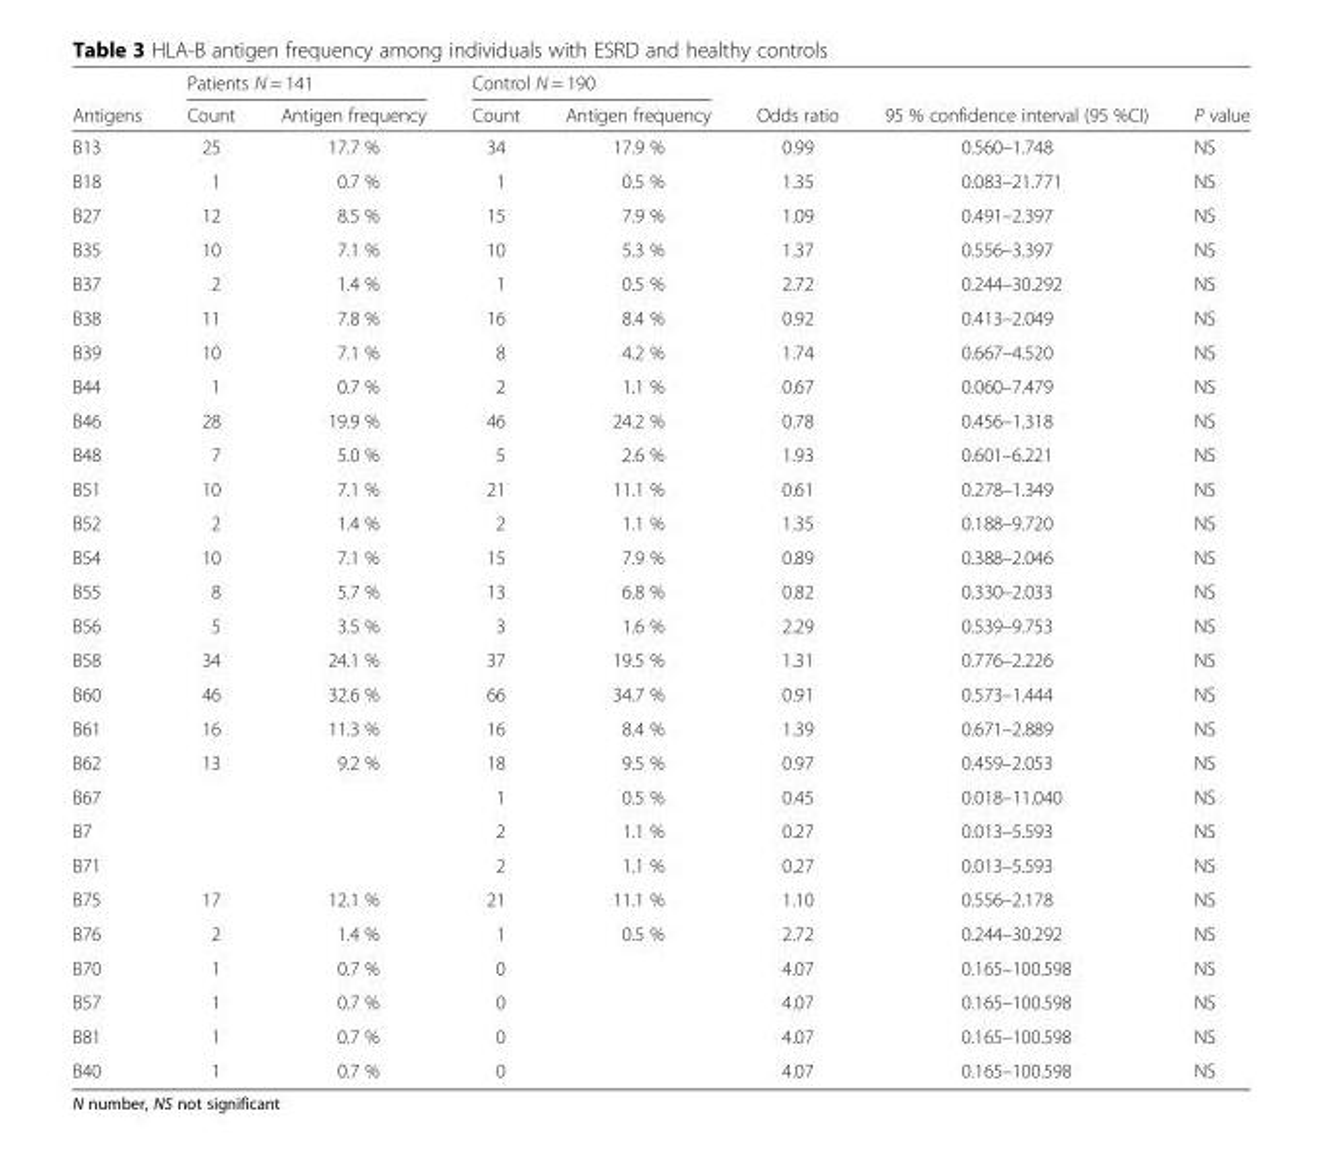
<table><thead><tr><td rowspan="2">Antigens</td><td colspan="2">Patients N = 141</td><td colspan="2">Control N = 190</td><td rowspan="2">Odds ratio</td><td rowspan="2">95 % confidence interval (95 %CI)</td><td rowspan="2">P value</td></tr><tr><td>Count</td><td>Antigen frequency</td><td>Count</td><td>Antigen frequency</td></tr></thead><tbody><tr><td>B13</td><td>25</td><td>17.7 %</td><td>34</td><td>17.9 %</td><td>0.99</td><td>0.560–1.748</td><td>NS</td></tr><tr><td>B18</td><td>1</td><td>0.7 %</td><td>1</td><td>0.5 %</td><td>1.35</td><td>0.083–21.771</td><td>NS</td></tr><tr><td>B27</td><td>12</td><td>8.5 %</td><td>15</td><td>7.9 %</td><td>1.09</td><td>0.491–2.397</td><td>NS</td></tr><tr><td>B35</td><td>10</td><td>7.1 %</td><td>10</td><td>5.3 %</td><td>1.37</td><td>0.556–3.397</td><td>NS</td></tr><tr><td>B37</td><td>2</td><td>1.4 %</td><td>1</td><td>0.5 %</td><td>2.72</td><td>0.244–30.292</td><td>NS</td></tr><tr><td>B38</td><td>11</td><td>7.8 %</td><td>16</td><td>8.4 %</td><td>0.92</td><td>0.413–2.049</td><td>NS</td></tr><tr><td>B39</td><td>10</td><td>7.1 %</td><td>8</td><td>4.2 %</td><td>1.74</td><td>0.667–4.520</td><td>NS</td></tr><tr><td>B44</td><td>1</td><td>0.7 %</td><td>2</td><td>1.1 %</td><td>0.67</td><td>0.060–7.479</td><td>NS</td></tr><tr><td>B46</td><td>28</td><td>19.9 %</td><td>46</td><td>24.2 %</td><td>0.78</td><td>0.456–1.318</td><td>NS</td></tr><tr><td>B48</td><td>7</td><td>5.0 %</td><td>5</td><td>2.6 %</td><td>1.93</td><td>0.601–6.221</td><td>NS</td></tr><tr><td>B51</td><td>10</td><td>7.1 %</td><td>21</td><td>11.1 %</td><td>0.61</td><td>0.278–1.349</td><td>NS</td></tr><tr><td>B52</td><td>2</td><td>1.4 %</td><td>2</td><td>1.1 %</td><td>1.35</td><td>0.188–9.720</td><td>NS</td></tr><tr><td>B54</td><td>10</td><td>7.1 %</td><td>15</td><td>7.9 %</td><td>0.89</td><td>0.388–2.046</td><td>NS</td></tr><tr><td>B55</td><td>8</td><td>5.7 %</td><td>13</td><td>6.8 %</td><td>0.82</td><td>0.330–2.033</td><td>NS</td></tr><tr><td>B56</td><td>5</td><td>3.5 %</td><td>3</td><td>1.6 %</td><td>2.29</td><td>0.539–9.753</td><td>NS</td></tr><tr><td>B58</td><td>34</td><td>24.1 %</td><td>37</td><td>19.5 %</td><td>1.31</td><td>0.776–2.226</td><td>NS</td></tr><tr><td>B60</td><td>46</td><td>32.6 %</td><td>66</td><td>34.7 %</td><td>0.91</td><td>0.573–1.444</td><td>NS</td></tr><tr><td>B61</td><td>16</td><td>11.3 %</td><td>16</td><td>8.4 %</td><td>1.39</td><td>0.671–2.889</td><td>NS</td></tr><tr><td>B62</td><td>13</td><td>9.2 %</td><td>18</td><td>9.5 %</td><td>0.97</td><td>0.459–2.053</td><td>NS</td></tr><tr><td>B67</td><td></td><td></td><td>1</td><td>0.5 %</td><td>0.45</td><td>0.018–11.040</td><td>NS</td></tr><tr><td>B7</td><td></td><td></td><td>2</td><td>1.1 %</td><td>0.27</td><td>0.013–5.593</td><td>NS</td></tr><tr><td>B71</td><td></td><td></td><td>2</td><td>1.1 %</td><td>0.27</td><td>0.013–5.593</td><td>NS</td></tr><tr><td>B75</td><td>17</td><td>12.1 %</td><td>21</td><td>11.1 %</td><td>1.10</td><td>0.556–2.178</td><td>NS</td></tr><tr><td>B76</td><td>2</td><td>1.4 %</td><td>1</td><td>0.5 %</td><td>2.72</td><td>0.244–30.292</td><td>NS</td></tr><tr><td>B70</td><td>1</td><td>0.7 %</td><td>0</td><td></td><td>4.07</td><td>0.165–100.598</td><td>NS</td></tr><tr><td>B57</td><td>1</td><td>0.7 %</td><td>0</td><td></td><td>4.07</td><td>0.165–100.598</td><td>NS</td></tr><tr><td>B81</td><td>1</td><td>0.7 %</td><td>0</td><td></td><td>4.07</td><td>0.165–100.598</td><td>NS</td></tr><tr><td>B40</td><td>1</td><td>0.7 %</td><td>0</td><td></td><td>4.07</td><td>0.165–100.598</td><td>NS</td></tr></tbody></table>